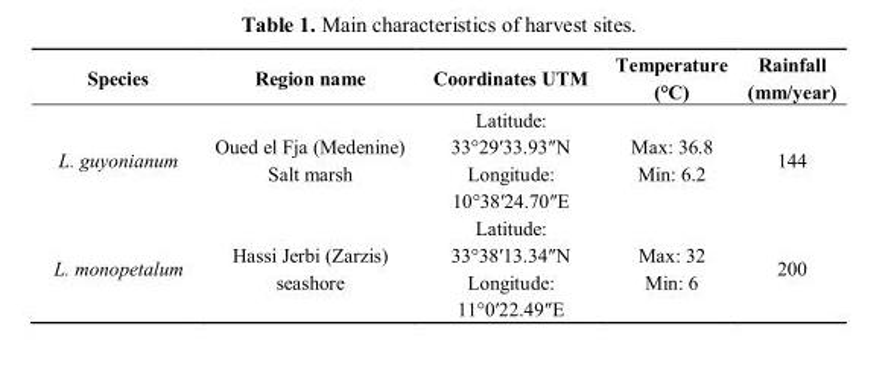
<table><thead><tr><td>Species</td><td>Region name</td><td>Coordinates UTM</td><td>Temperature (°C)</td><td>Rainfall (mm/year)</td></tr></thead><tbody><tr><td>L. guyonianum</td><td>Oued el Fja (Medenine) Salt marsh</td><td>Latitude: 33°29′33.93″N Longitude: 10°38′24.70″E</td><td>Max: 36.8 Min: 6.2</td><td>144</td></tr><tr><td>L. monopetalum</td><td>Hassi Jerbi (Zarzis) seashore</td><td>Latitude: 33°38′13.34″N Longitude: 11°0′22.49″E</td><td>Max: 32 Min: 6</td><td>200</td></tr></tbody></table>